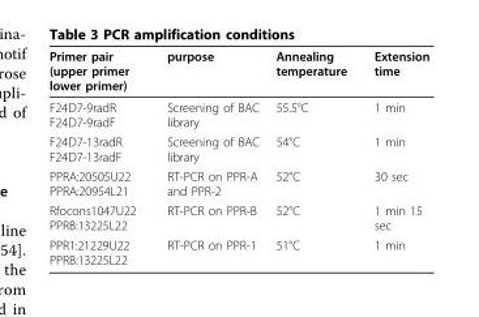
<table><thead><tr><td>Primer pair (upper primer lower primer)</td><td>purpose</td><td>Annealing temperature</td><td>Extension time</td></tr></thead><tbody><tr><td>F24D7-9radR F24D7-9radF</td><td>Screening of BAC library</td><td>55.5°C</td><td>1 min</td></tr><tr><td>F24D7-13radR F24D7-13radF</td><td>Screening of BAC library</td><td>54°C</td><td>1 min</td></tr><tr><td>PPRA:20505U22 PPRA:20954L21</td><td>RT-PCR on PPR-A and PPR-2</td><td>52°C</td><td>30 sec</td></tr><tr><td>Rfocons1047U22 PPRB:13225L22</td><td>RT-PCR on PPR-B</td><td>52°C</td><td>1 min 15 sec</td></tr><tr><td>PPR1:21229U22 PPRB:13225L22</td><td>RT-PCR on PPR-1</td><td>51°C</td><td>1 min</td></tr></tbody></table>